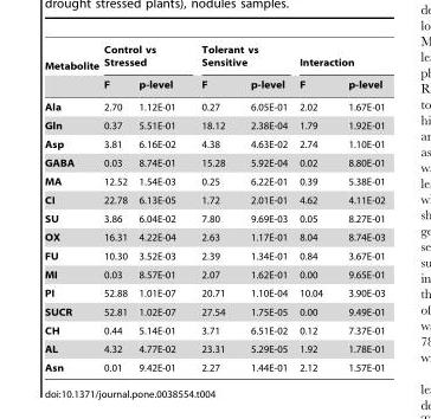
<table><thead><tr><td rowspan="2">Metabolite</td><td colspan="2">Control vs Stressed</td><td colspan="2">Tolerant vs Sensitive</td><td colspan="2">Interaction</td></tr><tr><td>F</td><td>p-level</td><td>F</td><td>p-level</td><td>F</td><td>p-level</td></tr></thead><tbody><tr><td>Ala</td><td>2.70</td><td>1.12E-01</td><td>0.27</td><td>6.05E-01</td><td>2.02</td><td>1.67E-01</td></tr><tr><td>Gln</td><td>0.37</td><td>5.51E-01</td><td>18.12</td><td>2.38E-04</td><td>1.79</td><td>1.92E-01</td></tr><tr><td>Asp</td><td>3.81</td><td>6.16E-02</td><td>4.38</td><td>4.63E-02</td><td>2.74</td><td>1.10E-01</td></tr><tr><td>GABA</td><td>0.03</td><td>8.74E-01</td><td>15.28</td><td>5.92E-04</td><td>0.02</td><td>8.80E-01</td></tr><tr><td>MA</td><td>12.52</td><td>1.54E-03</td><td>0.25</td><td>6.22E-01</td><td>0.39</td><td>5.38E-01</td></tr><tr><td>CI</td><td>22.78</td><td>6.13E-05</td><td>1.72</td><td>2.01E-01</td><td>4.62</td><td>4.11E-02</td></tr><tr><td>SU</td><td>3.86</td><td>6.04E-02</td><td>7.80</td><td>9.69E-03</td><td>0.05</td><td>8.27E-01</td></tr><tr><td>OX</td><td>16.31</td><td>4.22E-04</td><td>2.63</td><td>1.17E-01</td><td>8.04</td><td>8.74E-03</td></tr><tr><td>FU</td><td>10.30</td><td>3.52E-03</td><td>2.39</td><td>1.34E-01</td><td>0.84</td><td>3.67E-01</td></tr><tr><td>MI</td><td>0.03</td><td>8.57E-01</td><td>2.07</td><td>1.62E-01</td><td>0.00</td><td>9.65E-01</td></tr><tr><td>PI</td><td>52.88</td><td>1.01E-07</td><td>20.71</td><td>1.10E-04</td><td>10.04</td><td>3.90E-03</td></tr><tr><td>SUCR</td><td>52.81</td><td>1.02E-07</td><td>27.54</td><td>1.75E-05</td><td>0.00</td><td>9.49E-01</td></tr><tr><td>CH</td><td>0.44</td><td>5.14E-01</td><td>3.71</td><td>6.51E-02</td><td>0.12</td><td>7.37E-01</td></tr><tr><td>AL</td><td>4.32</td><td>4.77E-02</td><td>23.31</td><td>5.29E-05</td><td>1.92</td><td>1.78E-01</td></tr><tr><td>Asn</td><td>0.01</td><td>9.42E-01</td><td>2.27</td><td>1.44E-01</td><td>2.12</td><td>1.57E-01</td></tr></tbody></table>